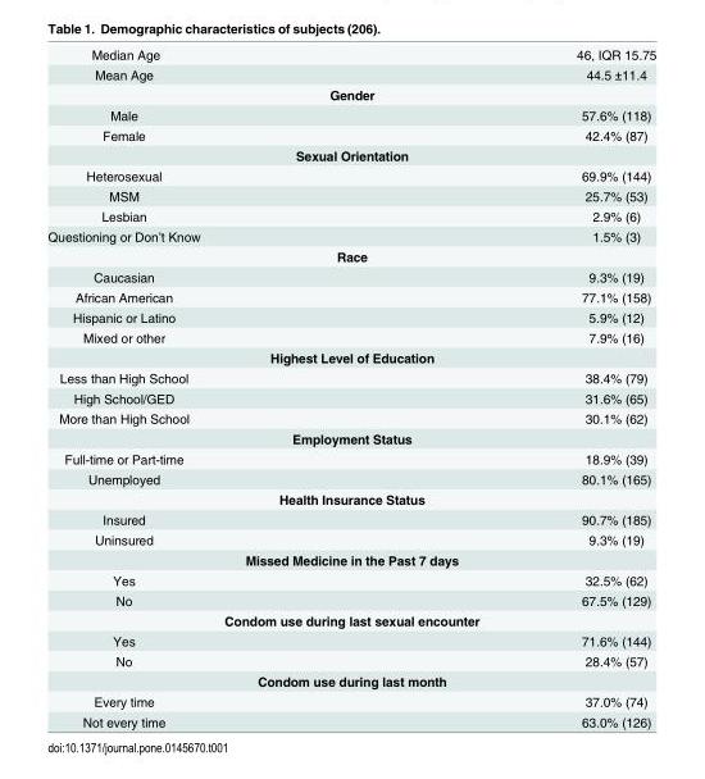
<table><tbody><tr><td>Median Age</td><td>46, IQR 15.75</td></tr><tr><td>Mean Age</td><td>44.5 ±11.4</td></tr><tr><td colspan="2">Gender</td></tr><tr><td>Male</td><td>57.6% (118)</td></tr><tr><td>Female</td><td>42.4% (87)</td></tr><tr><td colspan="2">Sexual Orientation</td></tr><tr><td>Heterosexual</td><td>69.9% (144)</td></tr><tr><td>MSM</td><td>25.7% (53)</td></tr><tr><td>Lesbian</td><td>2.9% (6)</td></tr><tr><td>Questioning or Don’t Know</td><td>1.5% (3)</td></tr><tr><td colspan="2">Race</td></tr><tr><td>Caucasian</td><td>9.3% (19)</td></tr><tr><td>African American</td><td>77.1% (158)</td></tr><tr><td>Hispanic or Latino</td><td>5.9% (12)</td></tr><tr><td>Mixed or other</td><td>7.9% (16)</td></tr><tr><td colspan="2">Highest Level of Education</td></tr><tr><td>Less than High School</td><td>38.4% (79)</td></tr><tr><td>High School/GED</td><td>31.6% (65)</td></tr><tr><td>More than High School</td><td>30.1% (62)</td></tr><tr><td colspan="2">Employment Status</td></tr><tr><td>Full-time or Part-time</td><td>18.9% (39)</td></tr><tr><td>Unemployed</td><td>80.1% (165)</td></tr><tr><td colspan="2">Health Insurance Status</td></tr><tr><td>Insured</td><td>90.7% (185)</td></tr><tr><td>Uninsured</td><td>9.3% (19)</td></tr><tr><td colspan="2">Missed Medicine in the Past 7 days</td></tr><tr><td>Yes</td><td>32.5% (62)</td></tr><tr><td>No</td><td>67.5% (129)</td></tr><tr><td colspan="2">Condom use during last sexual encounter</td></tr><tr><td>Yes</td><td>71.6% (144)</td></tr><tr><td>No</td><td>28.4% (57)</td></tr><tr><td colspan="2">Condom use during last month</td></tr><tr><td>Every time</td><td>37.0% (74)</td></tr><tr><td>Not every time</td><td>63.0% (126)</td></tr></tbody></table>